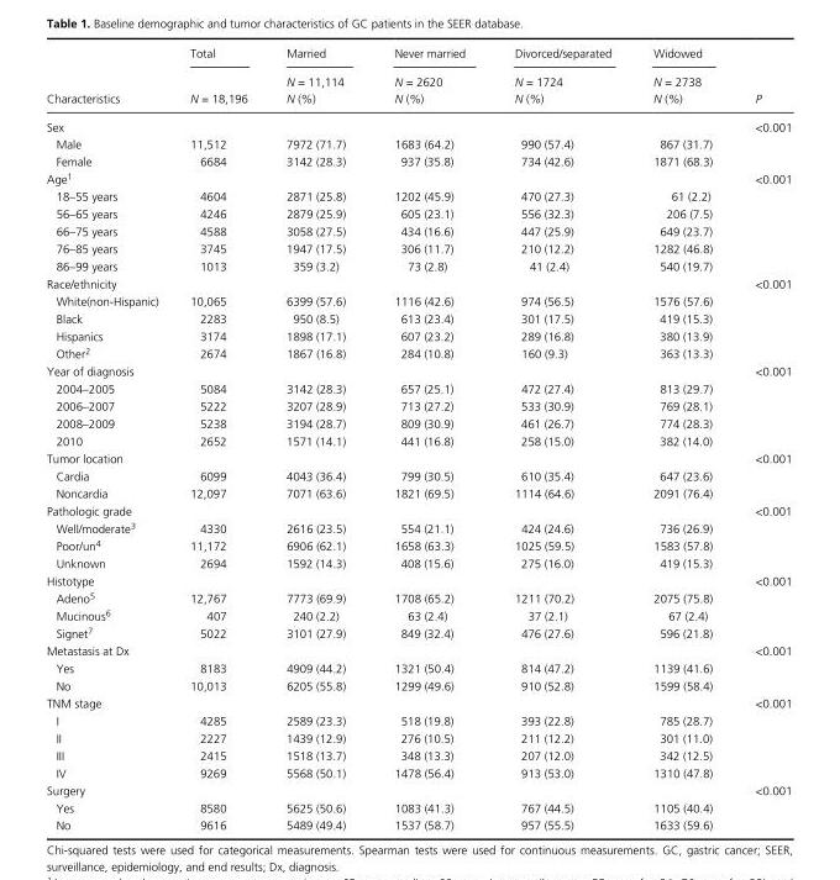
<table><thead><tr><td rowspan="2">Characteristics</td><td rowspan="2">Total N = 18,196</td><td rowspan="2">Married N = 11,114 N (%)</td><td rowspan="2">Never married N = 2620 N (%)</td><td rowspan="2">Divorced/separated N = 1724 N (%)</td><td rowspan="2">Widowed N = 2738 N (%)</td><td rowspan="2">P</td></tr><tr></tr></thead><tbody><tr><td colspan="6">Sex</td><td>&lt;0.001</td></tr><tr><td>Male</td><td>11,512</td><td>7972 (71.7)</td><td>1683 (64.2)</td><td>990 (57.4)</td><td>867 (31.7)</td><td></td></tr><tr><td>Female</td><td>6684</td><td>3142 (28.3)</td><td>937 (35.8)</td><td>734 (42.6)</td><td>1871 (68.3)</td><td></td></tr><tr><td colspan="6">Age1</td><td>&lt;0.001</td></tr><tr><td>18–55 years</td><td>4604</td><td>2871 (25.8)</td><td>1202 (45.9)</td><td>470 (27.3)</td><td>61 (2.2)</td><td></td></tr><tr><td>56–65 years</td><td>4246</td><td>2879 (25.9)</td><td>605 (23.1)</td><td>556 (32.3)</td><td>206 (7.5)</td><td></td></tr><tr><td>66–75 years</td><td>4588</td><td>3058 (27.5)</td><td>434 (16.6)</td><td>447 (25.9)</td><td>649 (23.7)</td><td></td></tr><tr><td>76–85 years</td><td>3745</td><td>1947 (17.5)</td><td>306 (11.7)</td><td>210 (12.2)</td><td>1282 (46.8)</td><td></td></tr><tr><td>86–99 years</td><td>1013</td><td>359 (3.2)</td><td>73 (2.8)</td><td>41 (2.4)</td><td>540 (19.7)</td><td></td></tr><tr><td colspan="6">Race/ethnicity</td><td>&lt;0.001</td></tr><tr><td>White(non- Hispanic)</td><td>10,065</td><td>6399 (57.6)</td><td>1116 (42.6)</td><td>974 (56.5)</td><td>1576 (57.6)</td><td></td></tr><tr><td>Black</td><td>2283</td><td>950 (8.5)</td><td>613 (23.4)</td><td>301 (17.5)</td><td>419 (15.3)</td><td></td></tr><tr><td>Hispanics</td><td>3174</td><td>1898 (17.1)</td><td>607 (23.2)</td><td>289 (16.8)</td><td>380 (13.9)</td><td></td></tr><tr><td>Other2</td><td>2674</td><td>1867 (16.8)</td><td>284 (10.8)</td><td>160 (9.3)</td><td>363 (13.3)</td><td></td></tr><tr><td colspan="6">Year of diagnosis</td><td>&lt;0.001</td></tr><tr><td>2004–2005</td><td>5084</td><td>3142 (28.3)</td><td>657 (25.1)</td><td>472 (27.4)</td><td>813 (29.7)</td><td></td></tr><tr><td>2006–2007</td><td>5222</td><td>3207 (28.9)</td><td>713 (27.2)</td><td>533 (30.9)</td><td>769 (28.1)</td><td></td></tr><tr><td>2008–2009</td><td>5238</td><td>3194 (28.7)</td><td>809 (30.9)</td><td>461 (26.7)</td><td>774 (28.3)</td><td></td></tr><tr><td>2010</td><td>2652</td><td>1571 (14.1)</td><td>441 (16.8)</td><td>258 (15.0)</td><td>382 (14.0)</td><td></td></tr><tr><td colspan="6">Tumor location</td><td>&lt;0.001</td></tr><tr><td>Cardia</td><td>6099</td><td>4043 (36.4)</td><td>799 (30.5)</td><td>610 (35.4)</td><td>647 (23.6)</td><td></td></tr><tr><td>Noncardia</td><td>12,097</td><td>7071 (63.6)</td><td>1821 (69.5)</td><td>1114 (64.6)</td><td>2091 (76.4)</td><td></td></tr><tr><td colspan="6">Pathologic grade</td><td>&lt;0.001</td></tr><tr><td>Well/moderate3</td><td>4330</td><td>2616 (23.5)</td><td>554 (21.1)</td><td>424 (24.6)</td><td>736 (26.9)</td><td></td></tr><tr><td>Poor/un4</td><td>11,172</td><td>6906 (62.1)</td><td>1658 (63.3)</td><td>1025 (59.5)</td><td>1583 (57.8)</td><td></td></tr><tr><td>Unknown</td><td>2694</td><td>1592 (14.3)</td><td>408 (15.6)</td><td>275 (16.0)</td><td>419 (15.3)</td><td></td></tr><tr><td colspan="6">Histotype</td><td>&lt;0.001</td></tr><tr><td>Adeno5</td><td>12,767</td><td>7773 (69.9)</td><td>1708 (65.2)</td><td>1211 (70.2)</td><td>2075 (75.8)</td><td></td></tr><tr><td>Mucinous6</td><td>407</td><td>240 (2.2)</td><td>63 (2.4)</td><td>37 (2.1)</td><td>67 (2.4)</td><td></td></tr><tr><td>Signet7</td><td>5022</td><td>3101 (27.9)</td><td>849 (32.4)</td><td>476 (27.6)</td><td>596 (21.8)</td><td></td></tr><tr><td colspan="6">Metastasis at Dx</td><td>&lt;0.001</td></tr><tr><td>Yes</td><td>8183</td><td>4909 (44.2)</td><td>1321 (50.4)</td><td>814 (47.2)</td><td>1139 (41.6)</td><td></td></tr><tr><td>No</td><td>10,013</td><td>6205 (55.8)</td><td>1299 (49.6)</td><td>910 (52.8)</td><td>1599 (58.4)</td><td></td></tr><tr><td colspan="6">TNM stage</td><td>&lt;0.001</td></tr><tr><td>I</td><td>4285</td><td>2589 (23.3)</td><td>518 (19.8)</td><td>393 (22.8)</td><td>785 (28.7)</td><td></td></tr><tr><td>II</td><td>2227</td><td>1439 (12.9)</td><td>276 (10.5)</td><td>211 (12.2)</td><td>301 (11.0)</td><td></td></tr><tr><td>III</td><td>2415</td><td>1518 (13.7)</td><td>348 (13.3)</td><td>207 (12.0)</td><td>342 (12.5)</td><td></td></tr><tr><td>IV</td><td>9269</td><td>5568 (50.1)</td><td>1478 (56.4)</td><td>913 (53.0)</td><td>1310 (47.8)</td><td></td></tr><tr><td colspan="6">Surgery</td><td>&lt;0.001</td></tr><tr><td>Yes</td><td>8580</td><td>5625 (50.6)</td><td>1083 (41.3)</td><td>767 (44.5)</td><td>1105 (40.4)</td><td></td></tr><tr><td>No</td><td>9616</td><td>5489 (49.4)</td><td>1537 (58.7)</td><td>957 (55.5)</td><td>1633 (59.6)</td><td></td></tr></tbody></table>